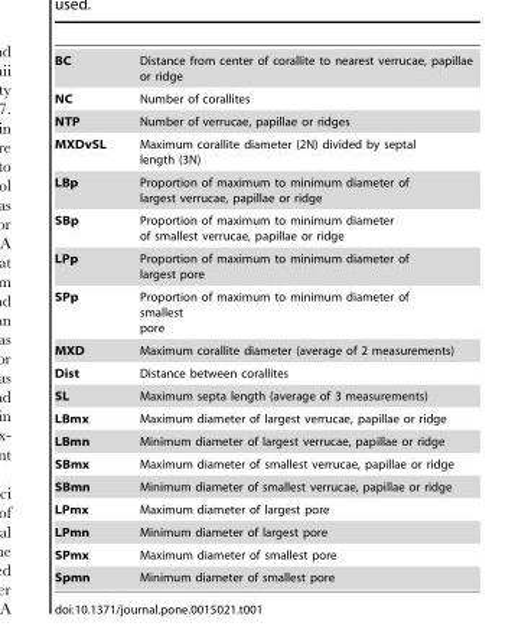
<table><tbody><tr><td>BC</td><td>Distance from center of corallite to nearest verrucae, papillae or ridge</td></tr><tr><td>NC</td><td>Number of corallites</td></tr><tr><td>NTP</td><td>Number of verrucae, papillae or ridges</td></tr><tr><td>MXDvSL</td><td>Maximum corallite diameter (2N) divided by septal length (3N)</td></tr><tr><td>LBp</td><td>Proportion of maximum to minimum diameter of largest verrucae, papillae or ridge</td></tr><tr><td>SBp</td><td>Proportion of maximum to minimum diameter of smallest verrucae, papillae or ridge</td></tr><tr><td>LPp</td><td>Proportion of maximum to minimum diameter of largest pore</td></tr><tr><td>SPp</td><td>Proportion of maximum to minimum diameter of smallest pore</td></tr><tr><td>MXD</td><td>Maximum corallite diameter (average of 2 measurements)</td></tr><tr><td>Dist</td><td>Distance between corallites</td></tr><tr><td>SL</td><td>Maximum septa length (average of 3 measurements)</td></tr><tr><td>LBmx</td><td>Maximum diameter of largest verrucae, papillae or ridge</td></tr><tr><td>LBmn</td><td>Minimum diameter of largest verrucae, papillae or ridge</td></tr><tr><td>SBmx</td><td>Maximum diameter of smallest verrucae, papillae or ridge</td></tr><tr><td>SBmn</td><td>Minimum diameter of smallest verrucae, papillae or ridge</td></tr><tr><td>LPmx</td><td>Maximum diameter of largest pore</td></tr><tr><td>LPmn</td><td>Minimum diameter of largest pore</td></tr><tr><td>SPmx</td><td>Maximum diameter of smallest pore</td></tr><tr><td>Spmn</td><td>Minimum diameter of smallest pore</td></tr></tbody></table>